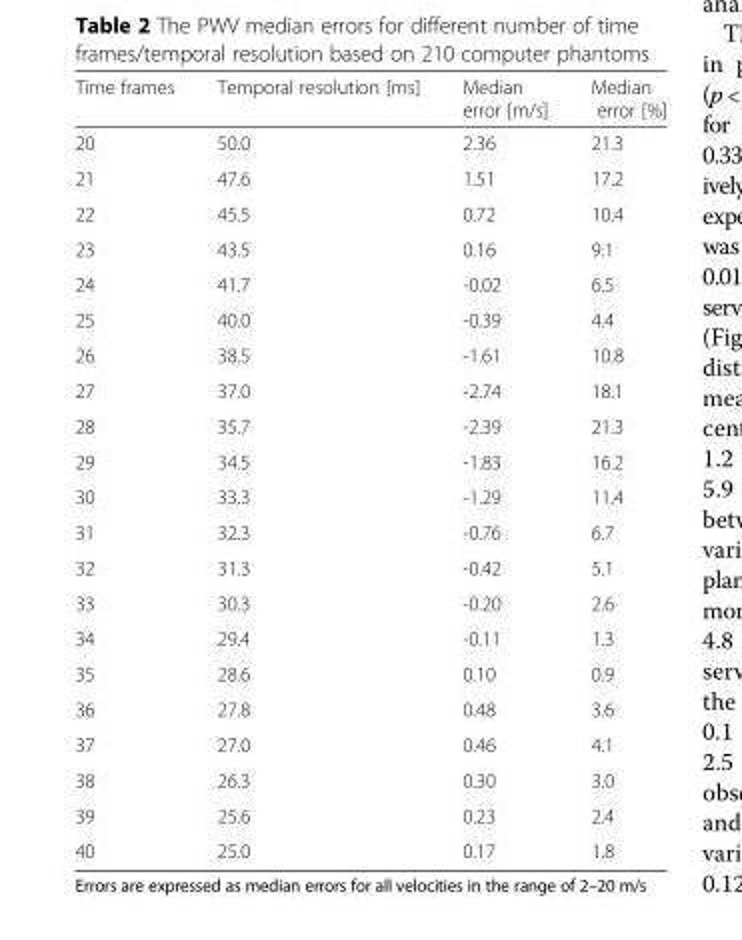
<table><thead><tr><td>Time frames</td><td>Temporal resolution [ms]</td><td>Median error [m/s]</td><td>Median error [%]</td></tr></thead><tbody><tr><td>20</td><td>50.0</td><td>2.36</td><td>21.3</td></tr><tr><td>21</td><td>47.6</td><td>1.51</td><td>17.2</td></tr><tr><td>22</td><td>45.5</td><td>0.72</td><td>10.4</td></tr><tr><td>23</td><td>43.5</td><td>0.16</td><td>9.1</td></tr><tr><td>24</td><td>41.7</td><td>-0.02</td><td>6.5</td></tr><tr><td>25</td><td>40.0</td><td>-0.39</td><td>4.4</td></tr><tr><td>26</td><td>38.5</td><td>-1.61</td><td>10.8</td></tr><tr><td>27</td><td>37.0</td><td>-2.74</td><td>18.1</td></tr><tr><td>28</td><td>35.7</td><td>-2.39</td><td>21.3</td></tr><tr><td>29</td><td>34.5</td><td>-1.83</td><td>16.2</td></tr><tr><td>30</td><td>33.3</td><td>-1.29</td><td>11.4</td></tr><tr><td>31</td><td>32.3</td><td>-0.76</td><td>6.7</td></tr><tr><td>32</td><td>31.3</td><td>-0.42</td><td>5.1</td></tr><tr><td>33</td><td>30.3</td><td>-0.20</td><td>2.6</td></tr><tr><td>34</td><td>29.4</td><td>-0.11</td><td>1.3</td></tr><tr><td>35</td><td>28.6</td><td>0.10</td><td>0.9</td></tr><tr><td>36</td><td>27.8</td><td>0.48</td><td>3.6</td></tr><tr><td>37</td><td>27.0</td><td>0.46</td><td>4.1</td></tr><tr><td>38</td><td>26.3</td><td>0.30</td><td>3.0</td></tr><tr><td>39</td><td>25.6</td><td>0.23</td><td>2.4</td></tr><tr><td>40</td><td>25.0</td><td>0.17</td><td>1.8</td></tr></tbody></table>